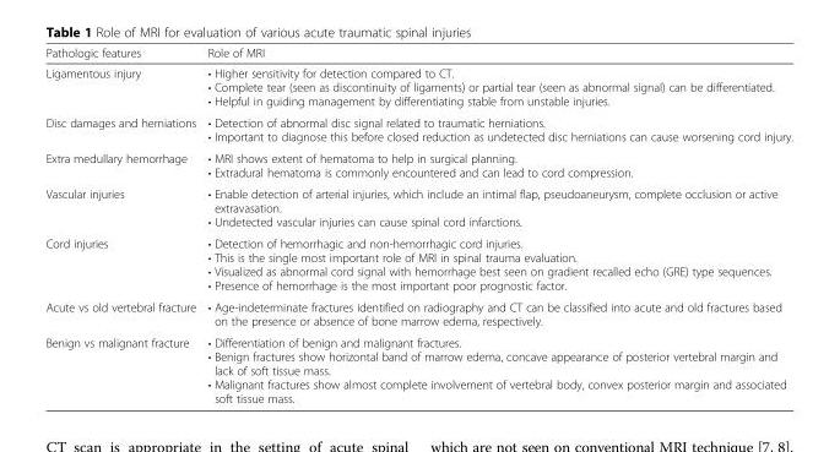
<table><thead><tr><td>Pathologic features</td><td>Role of MRI</td></tr></thead><tbody><tr><td>Ligamentous injury</td><td>• Higher sensitivity for detection compared to CT. • Complete tear (seen as discontinuity of ligaments) or partial tear (seen as abnormal signal) can be differentiated. • Helpful in guiding management by differentiating stable from unstable injuries.</td></tr><tr><td>Disc damages and herniations</td><td>• Detection of abnormal disc signal related to traumatic herniations. • Important to diagnose this before closed reduction as undetected disc herniations can cause worsening cord injury.</td></tr><tr><td>Extra medullary hemorrhage</td><td>• MRI shows extent of hematoma to help in surgical planning. • Extradural hematoma is commonly encountered and can lead to cord compression.</td></tr><tr><td>Vascular injuries</td><td>• Enable detection of arterial injuries, which include an intimal flap, pseudoaneurysm, complete occlusion or active extravasation. • Undetected vascular injuries can cause spinal cord infarctions.</td></tr><tr><td>Cord injuries</td><td>• Detection of hemorrhagic and non-hemorrhagic cord injuries. • This is the single most important role of MRI in spinal trauma evaluation. • Visualized as abnormal cord signal with hemorrhage best seen on gradient recalled echo (GRE) type sequences. • Presence of hemorrhage is the most important poor prognostic factor.</td></tr><tr><td>Acute vs old vertebral fracture</td><td>• Age-indeterminate fractures identified on radiography and CT can be classified into acute and old fractures based on the presence or absence of bone marrow edema, respectively.</td></tr><tr><td>Benign vs malignant fracture</td><td>• Differentiation of benign and malignant fractures. • Benign fractures show horizontal band of marrow edema, concave appearance of posterior vertebral margin and lack of soft tissue mass. • Malignant fractures show almost complete involvement of vertebral body, convex posterior margin and associated soft tissue mass.</td></tr></tbody></table>